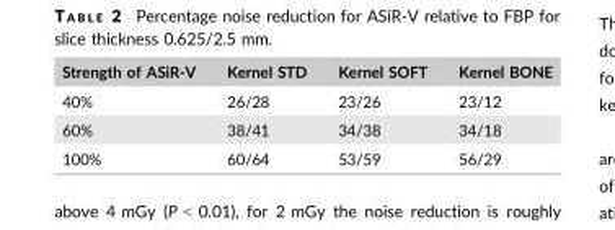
<table><thead><tr><td>Strength of ASiR-V</td><td>Kernel STD</td><td>Kernel SOFT</td><td>Kernel BONE</td></tr></thead><tbody><tr><td>40%</td><td>26/28</td><td>23/26</td><td>23/12</td></tr><tr><td>60%</td><td>38/41</td><td>34/38</td><td>34/18</td></tr><tr><td>100%</td><td>60/64</td><td>53/59</td><td>56/29</td></tr></tbody></table>